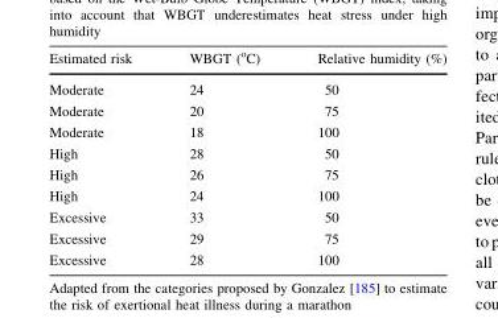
<table><thead><tr><td>Estimated risk</td><td>WBGT (<sup>o</sup>C)</td><td>Relative humidity (%)</td></tr></thead><tbody><tr><td>Moderate</td><td>24</td><td>50</td></tr><tr><td>Moderate</td><td>20</td><td>75</td></tr><tr><td>Moderate</td><td>18</td><td>100</td></tr><tr><td>High</td><td>28</td><td>50</td></tr><tr><td>High</td><td>26</td><td>75</td></tr><tr><td>High</td><td>24</td><td>100</td></tr><tr><td>Excessive</td><td>33</td><td>50</td></tr><tr><td>Excessive</td><td>29</td><td>75</td></tr><tr><td>Excessive</td><td>28</td><td>100</td></tr></tbody></table>